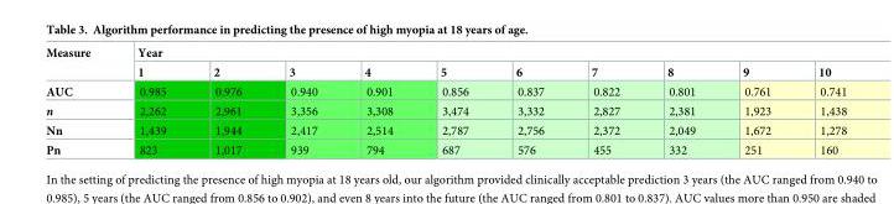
<table><thead><tr><td rowspan="2">Measure</td><td colspan="10">Year</td></tr><tr><td>1</td><td>2</td><td>3</td><td>4</td><td>5</td><td>6</td><td>7</td><td>8</td><td>9</td><td>10</td></tr></thead><tbody><tr><td>AUC</td><td>0.985</td><td>0.976</td><td>0.940</td><td>0.901</td><td>0.856</td><td>0.837</td><td>0.822</td><td>0.801</td><td>0.761</td><td>0.741</td></tr><tr><td>n</td><td>2,262</td><td>2,961</td><td>3,356</td><td>3,308</td><td>3,474</td><td>3,332</td><td>2,827</td><td>2,381</td><td>1,923</td><td>1,438</td></tr><tr><td>Nn</td><td>1,439</td><td>1,944</td><td>2,417</td><td>2,514</td><td>2,787</td><td>2,756</td><td>2,372</td><td>2,049</td><td>1,672</td><td>1,278</td></tr><tr><td>Pn</td><td>823</td><td>1,017</td><td>939</td><td>794</td><td>687</td><td>576</td><td>455</td><td>332</td><td>251</td><td>160</td></tr></tbody></table>